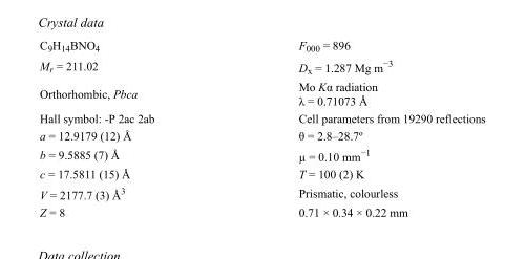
<table><tbody><tr><td>C<sub>9</sub>H<sub>14</sub>BNO<sub>4</sub></td><td>F<sub>000</sub> = 896</td></tr><tr><td>M<sub>r</sub> = 211.02</td><td>D<sub>x</sub> = 1.287 Mg m<sup>−3</sup></td></tr><tr><td>Orthorhombic, Pbca</td><td>Mo Kα radiation λ = 0.71073 Å</td></tr><tr><td>Hall symbol: -P 2ac 2ab</td><td>Cell parameters from 19290 reflections</td></tr><tr><td>a = 12.9179 (12) Å</td><td>θ = 2.8–28.7º</td></tr><tr><td>b = 9.5885 (7) Å</td><td>µ = 0.10 mm<sup>−1</sup></td></tr><tr><td>c = 17.5811 (15) Å</td><td>T = 100 (2) K</td></tr><tr><td>V = 2177.7 (3) Å<sup>3</sup></td><td>Prismatic, colourless</td></tr><tr><td>Z = 8</td><td>0.71 × 0.34 × 0.22 mm</td></tr></tbody></table>